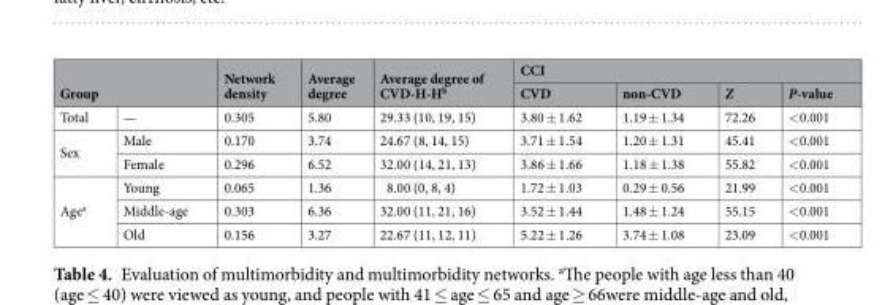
<table><thead><tr><td rowspan="2" colspan="2">Group</td><td rowspan="3">Network density 0.305</td><td rowspan="3">Average degree 5.80</td><td rowspan="3">Average degree of CVD-H-H<sup>b</sup> 29.33 (10, 19, 15)</td><td colspan="4">CCI</td></tr><tr><td rowspan="2">CVD 3.80 ± 1.62</td><td rowspan="2">non-CVD 1.19 ± 1.34</td><td rowspan="2">Z 72.26</td><td rowspan="2">P-value &lt;0.001</td></tr><tr><td>Total</td><td>—</td></tr></thead><tbody><tr><td rowspan="2">Sex</td><td>Male</td><td>0.170</td><td>3.74</td><td>24.67 (8, 14, 15)</td><td>3.71 ± 1.54</td><td>1.20 ± 1.31</td><td>45.41</td><td>&lt;0.001</td></tr><tr><td>Female</td><td>0.296</td><td>6.52</td><td>32.00 (14, 21, 13)</td><td>3.86 ± 1.66</td><td>1.18 ± 1.38</td><td>55.82</td><td>&lt;0.001</td></tr><tr><td rowspan="3">Age<sup>a</sup></td><td>Young</td><td>0.065</td><td>1.36</td><td>8.00 (0, 8, 4)</td><td>1.72 ± 1.03</td><td>0.29 ± 0.56</td><td>21.99</td><td>&lt;0.001</td></tr><tr><td>Middle-age</td><td>0.303</td><td>6.36</td><td>32.00 (11, 21, 16)</td><td>3.52 ± 1.44</td><td>1.48 ± 1.24</td><td>55.15</td><td>&lt;0.001</td></tr><tr><td>Old</td><td>0.156</td><td>3.27</td><td>22.67 (11, 12, 11)</td><td>5.22 ± 1.26</td><td>3.74 ± 1.08</td><td>23.09</td><td>&lt;0.001</td></tr></tbody></table>